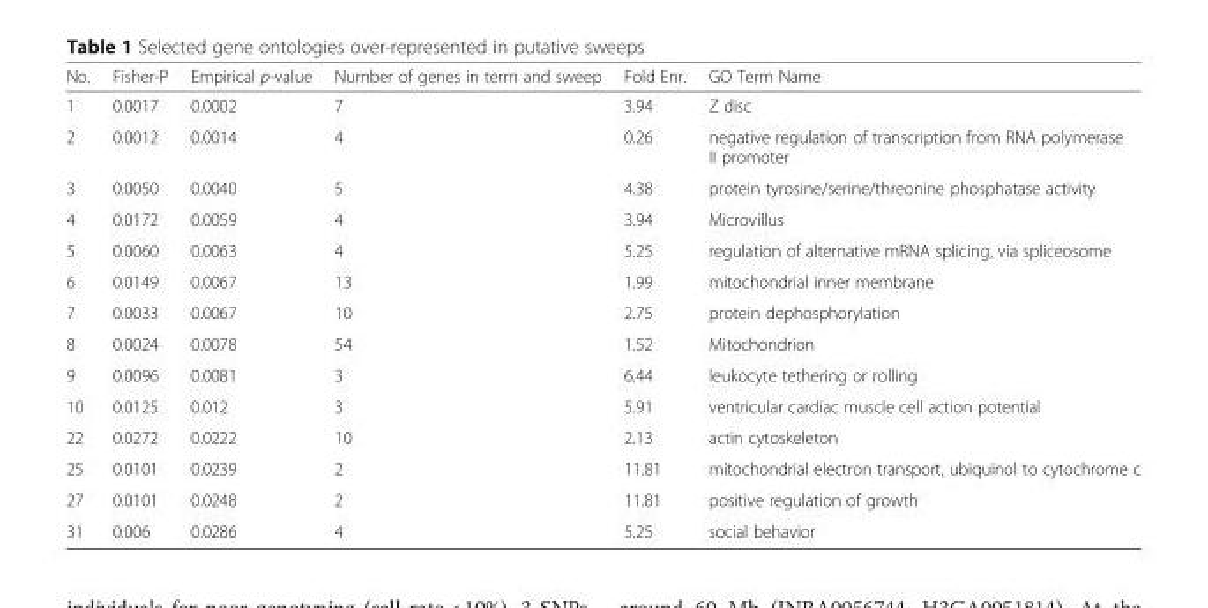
<table><thead><tr><td>No.</td><td>Fisher-P</td><td>Empirical p-value</td><td>Number of genes in term and sweep</td><td>Fold Enr.</td><td>GO Term Name</td></tr></thead><tbody><tr><td>1</td><td>0.0017</td><td>0.0002</td><td>7</td><td>3.94</td><td>Z disc</td></tr><tr><td>2</td><td>0.0012</td><td>0.0014</td><td>4</td><td>0.26</td><td>negative regulation of transcription from RNA polymerase II promoter</td></tr><tr><td>3</td><td>0.0050</td><td>0.0040</td><td>5</td><td>4.38</td><td>protein tyrosine/serine/threonine phosphatase activity</td></tr><tr><td>4</td><td>0.0172</td><td>0.0059</td><td>4</td><td>3.94</td><td>Microvillus</td></tr><tr><td>5</td><td>0.0060</td><td>0.0063</td><td>4</td><td>5.25</td><td>regulation of alternative mRNA splicing, via spliceosome</td></tr><tr><td>6</td><td>0.0149</td><td>0.0067</td><td>13</td><td>1.99</td><td>mitochondrial inner membrane</td></tr><tr><td>7</td><td>0.0033</td><td>0.0067</td><td>10</td><td>2.75</td><td>protein dephosphorylation</td></tr><tr><td>8</td><td>0.0024</td><td>0.0078</td><td>54</td><td>1.52</td><td>Mitochondrion</td></tr><tr><td>9</td><td>0.0096</td><td>0.0081</td><td>3</td><td>6.44</td><td>leukocyte tethering or rolling</td></tr><tr><td>10</td><td>0.0125</td><td>0.012</td><td>3</td><td>5.91</td><td>ventricular cardiac muscle cell action potential</td></tr><tr><td>22</td><td>0.0272</td><td>0.0222</td><td>10</td><td>2.13</td><td>actin cytoskeleton</td></tr><tr><td>25</td><td>0.0101</td><td>0.0239</td><td>2</td><td>11.81</td><td>mitochondrial electron transport, ubiquinol to cytochrome c</td></tr><tr><td>27</td><td>0.0101</td><td>0.0248</td><td>2</td><td>11.81</td><td>positive regulation of growth</td></tr><tr><td>31</td><td>0.006</td><td>0.0286</td><td>4</td><td>5.25</td><td>social behavior</td></tr></tbody></table>